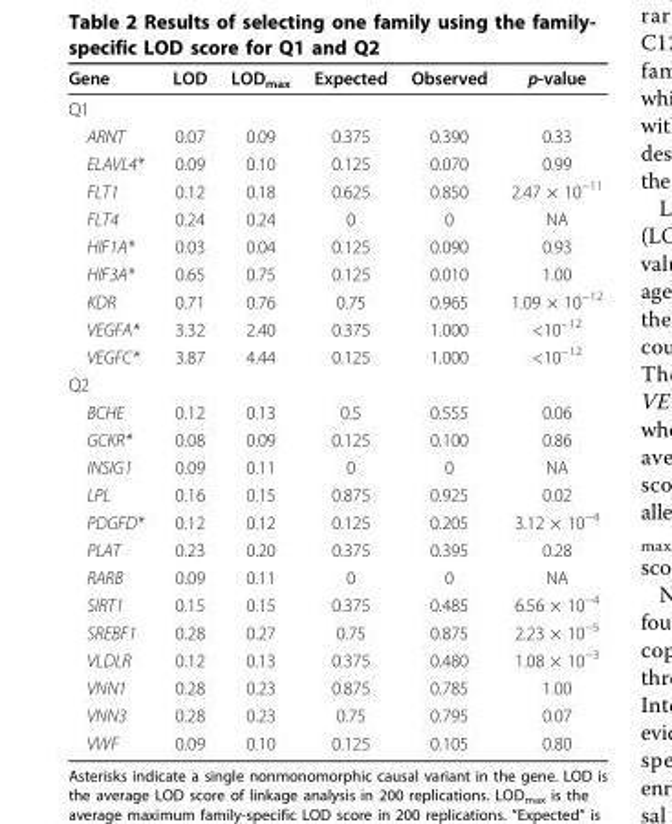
<table><thead><tr><td>Gene</td><td>LOD</td><td>LOD<sub>max</sub></td><td>Expected</td><td>Observed</td><td>p-value</td></tr></thead><tbody><tr><td colspan="6">Q1</td></tr><tr><td>ARNT</td><td>0.07</td><td>0.09</td><td>0.375</td><td>0.390</td><td>0.33</td></tr><tr><td>ELAVL4*</td><td>0.09</td><td>0.10</td><td>0.125</td><td>0.070</td><td>0.99</td></tr><tr><td>FLT1</td><td>0.12</td><td>0.18</td><td>0.625</td><td>0.850</td><td>2.47 × 10<sup>−11</sup></td></tr><tr><td>FLT4</td><td>0.24</td><td>0.24</td><td>0</td><td>0</td><td>NA</td></tr><tr><td>HIF1A*</td><td>0.03</td><td>0.04</td><td>0.125</td><td>0.090</td><td>0.93</td></tr><tr><td>HIF3A*</td><td>0.65</td><td>0.75</td><td>0.125</td><td>0.010</td><td>1.00</td></tr><tr><td>KDR</td><td>0.71</td><td>0.76</td><td>0.75</td><td>0.965</td><td>1.09 × 10<sup>−12</sup></td></tr><tr><td>VEGFA*</td><td>3.32</td><td>2.40</td><td>0.375</td><td>1.000</td><td>&lt;10<sup>−12</sup></td></tr><tr><td>VEGFC*</td><td>3.87</td><td>4.44</td><td>0.125</td><td>1.000</td><td>&lt;10<sup>−12</sup></td></tr><tr><td colspan="6">Q2</td></tr><tr><td>BCHE</td><td>0.12</td><td>0.13</td><td>0.5</td><td>0.555</td><td>0.06</td></tr><tr><td>GCKR*</td><td>0.08</td><td>0.09</td><td>0.125</td><td>0.100</td><td>0.86</td></tr><tr><td>INSIG1</td><td>0.09</td><td>0.11</td><td>0</td><td>0</td><td>NA</td></tr><tr><td>LPL</td><td>0.16</td><td>0.15</td><td>0.875</td><td>0.925</td><td>0.02</td></tr><tr><td>PDGFD*</td><td>0.12</td><td>0.12</td><td>0.125</td><td>0.205</td><td>3.12 × 10<sup>−4</sup></td></tr><tr><td>PLAT</td><td>0.23</td><td>0.20</td><td>0.375</td><td>0.395</td><td>0.28</td></tr><tr><td>RARB</td><td>0.09</td><td>0.11</td><td>0</td><td>0</td><td>NA</td></tr><tr><td>SIRT1</td><td>0.15</td><td>0.15</td><td>0.375</td><td>0.485</td><td>6.56 × 10<sup>−4</sup></td></tr><tr><td>SREBF1</td><td>0.28</td><td>0.27</td><td>0.75</td><td>0.875</td><td>2.23 × 10<sup>−5</sup></td></tr><tr><td>VLDLR</td><td>0.12</td><td>0.13</td><td>0.375</td><td>0.480</td><td>1.08 × 10<sup>−3</sup></td></tr><tr><td>VNN1</td><td>0.28</td><td>0.23</td><td>0.875</td><td>0.785</td><td>1.00</td></tr><tr><td>VNN3</td><td>0.28</td><td>0.23</td><td>0.75</td><td>0.795</td><td>0.07</td></tr><tr><td>VWF</td><td>0.09</td><td>0.10</td><td>0.125</td><td>0.105</td><td>0.80</td></tr></tbody></table>